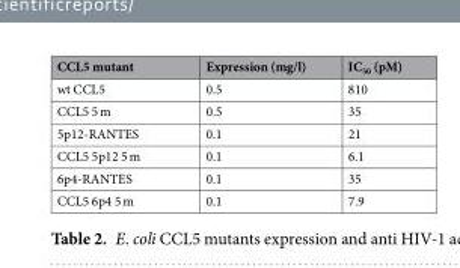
<table><thead><tr><td>CCL5 mutant</td><td>Expression (mg/l)</td><td>IC<sub>50</sub> (pM)</td></tr></thead><tbody><tr><td>wt CCL5</td><td>0.5</td><td>810</td></tr><tr><td>CCL5 5 m</td><td>0.5</td><td>35</td></tr><tr><td>5p12-RANTES</td><td>0.1</td><td>21</td></tr><tr><td>CCL5 5p12 5 m</td><td>0.1</td><td>6.1</td></tr><tr><td>6p4-RANTES</td><td>0.1</td><td>35</td></tr><tr><td>CCL5 6p4 5 m</td><td>0.1</td><td>7.9</td></tr></tbody></table>